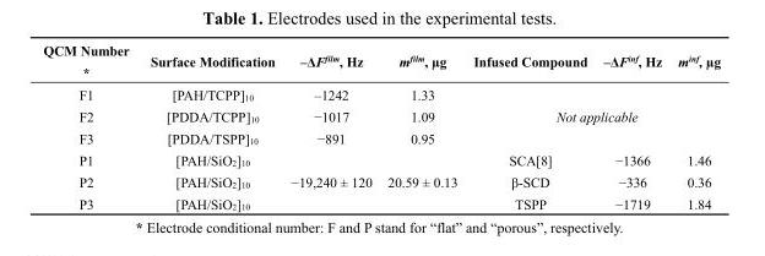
<table><thead><tr><td>QCM Number *</td><td>Surface Modification</td><td>–ΔF<sup>film</sup>, Hz</td><td>m<sup>film</sup>, µg</td><td>Infused Compound</td><td>–ΔF<sup>inf</sup>, Hz</td><td>m<sup>inf</sup>, µg</td></tr></thead><tbody><tr><td>F1</td><td>[PAH/TCPP]<sub>10</sub></td><td>–1242</td><td>1.33</td><td rowspan="3" colspan="3">Not applicable</td></tr><tr><td>F2</td><td>[PDDA/TCPP]<sub>10</sub></td><td>−1017</td><td>1.09</td></tr><tr><td>F3</td><td>[PDDA/TSPP]<sub>10</sub></td><td>−891</td><td>0.95</td></tr><tr><td>P1</td><td>[PAH/SiO<sub>2</sub>]<sub>10</sub></td><td rowspan="3">−19,240 ± 120</td><td rowspan="3">20.59 ± 0.13</td><td>SCA[8]</td><td>−1366</td><td>1.46</td></tr><tr><td>P2</td><td>[PAH/SiO<sub>2</sub>]<sub>10</sub></td><td>β-SCD</td><td>−336</td><td>0.36</td></tr><tr><td>P3</td><td>[PAH/SiO<sub>2</sub>]<sub>10</sub></td><td>TSPP</td><td>−1719</td><td>1.84</td></tr></tbody></table>